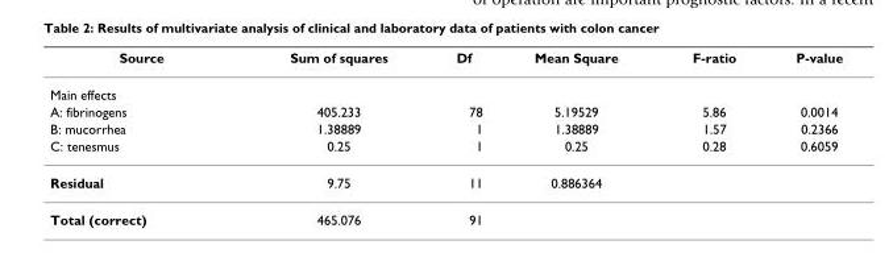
<table><thead><tr><td>Source</td><td>Sum of squares</td><td>Df</td><td>Mean Square</td><td>F-ratio</td><td>P-value</td></tr></thead><tbody><tr><td colspan="6">Main effects</td></tr><tr><td>A: fibrinogens</td><td>405.233</td><td>78</td><td>5.19529</td><td>5.86</td><td>0.0014</td></tr><tr><td>B: mucorrhea</td><td>1.38889</td><td>1</td><td>1.38889</td><td>1.57</td><td>0.2366</td></tr><tr><td>C: tenesmus</td><td>0.25</td><td>1</td><td>0.25</td><td>0.28</td><td>0.6059</td></tr><tr><td>Residual</td><td>9.75</td><td>11</td><td>0.886364</td><td></td><td></td></tr><tr><td>Total (correct)</td><td>465.076</td><td>91</td><td></td><td></td><td></td></tr></tbody></table>